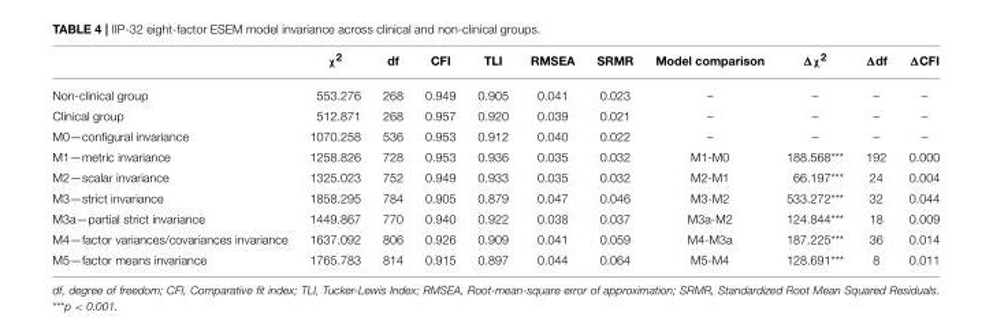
<table><thead><tr><td></td><td>χ<sup>2</sup></td><td>df</td><td>CFI</td><td>TLI</td><td>RMSEA</td><td>SRMR</td><td>Model comparison</td><td>Δχ<sup>2</sup></td><td>Δdf</td><td>ΔCFI</td></tr></thead><tbody><tr><td>Non-clinical group</td><td>553.276</td><td>268</td><td>0.949</td><td>0.905</td><td>0.041</td><td>0.023</td><td>–</td><td>–</td><td>–</td><td>–</td></tr><tr><td>Clinical group</td><td>512.871</td><td>268</td><td>0.957</td><td>0.920</td><td>0.039</td><td>0.021</td><td>–</td><td>–</td><td>–</td><td>–</td></tr><tr><td>M0—configural invariance</td><td>1070.258</td><td>536</td><td>0.953</td><td>0.912</td><td>0.040</td><td>0.022</td><td>–</td><td>–</td><td>–</td><td>–</td></tr><tr><td>M1—metric invariance</td><td>1258.826</td><td>728</td><td>0.953</td><td>0.936</td><td>0.035</td><td>0.032</td><td>M1-M0</td><td>188.568***</td><td>192</td><td>0.000</td></tr><tr><td>M2—scalar invariance</td><td>1325.023</td><td>752</td><td>0.949</td><td>0.933</td><td>0.035</td><td>0.032</td><td>M2-M1</td><td>66.197***</td><td>24</td><td>0.004</td></tr><tr><td>M3—strict invariance</td><td>1858.295</td><td>784</td><td>0.905</td><td>0.879</td><td>0.047</td><td>0.046</td><td>M3-M2</td><td>533.272***</td><td>32</td><td>0.044</td></tr><tr><td>M3a—partial strict invariance</td><td>1449.867</td><td>770</td><td>0.940</td><td>0.922</td><td>0.038</td><td>0.037</td><td>M3a-M2</td><td>124.844***</td><td>18</td><td>0.009</td></tr><tr><td>M4—factor variances/covariances invariance</td><td>1637.092</td><td>806</td><td>0.926</td><td>0.909</td><td>0.041</td><td>0.059</td><td>M4-M3a</td><td>187.225***</td><td>36</td><td>0.014</td></tr><tr><td>M5—factor means invariance</td><td>1765.783</td><td>814</td><td>0.915</td><td>0.897</td><td>0.044</td><td>0.064</td><td>M5-M4</td><td>128.691***</td><td>8</td><td>0.011</td></tr></tbody></table>